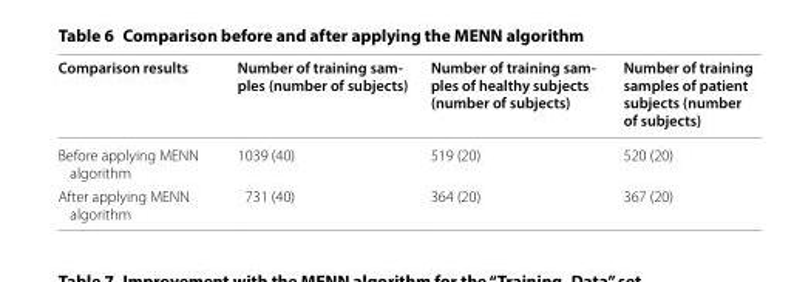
<table><thead><tr><td>Comparison results</td><td>Number of training sam‑ ples (number of subjects)</td><td>Number of training sam‑ ples of healthy subjects (number of subjects)</td><td>Number of training samples of patient subjects (number of subjects)</td></tr></thead><tbody><tr><td>Before applying MENN algorithm</td><td>1039 (40)</td><td>519 (20)</td><td>520 (20)</td></tr><tr><td>After applying MENN algorithm</td><td>731 (40)</td><td>364 (20)</td><td>367 (20)</td></tr></tbody></table>